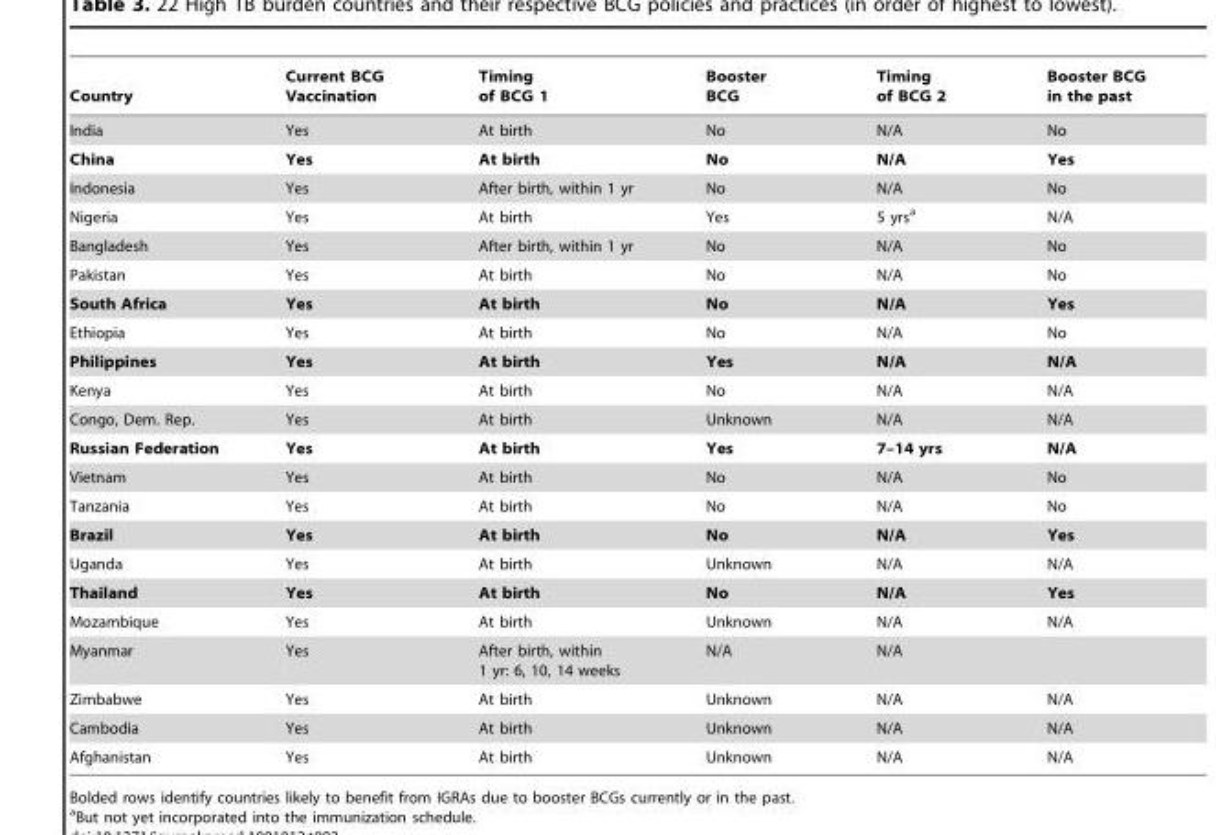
<table><thead><tr><td>Country</td><td>Current BCG Vaccination</td><td>Timing of BCG 1</td><td>Booster BCG</td><td>Timing of BCG 2</td><td>Booster BCG in the past</td></tr></thead><tbody><tr><td>India</td><td>Yes</td><td>At birth</td><td>No</td><td>N/A</td><td>No</td></tr><tr><td>China</td><td>Yes</td><td>At birth</td><td>No</td><td>N/A</td><td>Yes</td></tr><tr><td>Indonesia</td><td>Yes</td><td>After birth, within 1 yr</td><td>No</td><td>N/A</td><td>No</td></tr><tr><td>Nigeria</td><td>Yes</td><td>At birth</td><td>Yes</td><td>5 yrs<sup>a</sup></td><td>N/A</td></tr><tr><td>Bangladesh</td><td>Yes</td><td>After birth, within 1 yr</td><td>No</td><td>N/A</td><td>No</td></tr><tr><td>Pakistan</td><td>Yes</td><td>At birth</td><td>No</td><td>N/A</td><td>No</td></tr><tr><td>South Africa</td><td>Yes</td><td>At birth</td><td>No</td><td>N/A</td><td>Yes</td></tr><tr><td>Ethiopia</td><td>Yes</td><td>At birth</td><td>No</td><td>N/A</td><td>No</td></tr><tr><td>Philippines</td><td>Yes</td><td>At birth</td><td>Yes</td><td>N/A</td><td>N/A</td></tr><tr><td>Kenya</td><td>Yes</td><td>At birth</td><td>No</td><td>N/A</td><td>N/A</td></tr><tr><td>Congo, Dem. Rep.</td><td>Yes</td><td>At birth</td><td>Unknown</td><td>N/A</td><td>N/A</td></tr><tr><td>Russian Federation</td><td>Yes</td><td>At birth</td><td>Yes</td><td>7–14 yrs</td><td>N/A</td></tr><tr><td>Vietnam</td><td>Yes</td><td>At birth</td><td>No</td><td>N/A</td><td>No</td></tr><tr><td>Tanzania</td><td>Yes</td><td>At birth</td><td>No</td><td>N/A</td><td>No</td></tr><tr><td>Brazil</td><td>Yes</td><td>At birth</td><td>No</td><td>N/A</td><td>Yes</td></tr><tr><td>Uganda</td><td>Yes</td><td>At birth</td><td>Unknown</td><td>N/A</td><td>N/A</td></tr><tr><td>Thailand</td><td>Yes</td><td>At birth</td><td>No</td><td>N/A</td><td>Yes</td></tr><tr><td>Mozambique</td><td>Yes</td><td>At birth</td><td>Unknown</td><td>N/A</td><td>N/A</td></tr><tr><td>Myanmar</td><td>Yes</td><td>After birth, within 1 yr: 6, 10, 14 weeks</td><td>N/A</td><td>N/A</td><td></td></tr><tr><td>Zimbabwe</td><td>Yes</td><td>At birth</td><td>Unknown</td><td>N/A</td><td>N/A</td></tr><tr><td>Cambodia</td><td>Yes</td><td>At birth</td><td>Unknown</td><td>N/A</td><td>N/A</td></tr><tr><td>Afghanistan</td><td>Yes</td><td>At birth</td><td>Unknown</td><td>N/A</td><td>N/A</td></tr></tbody></table>